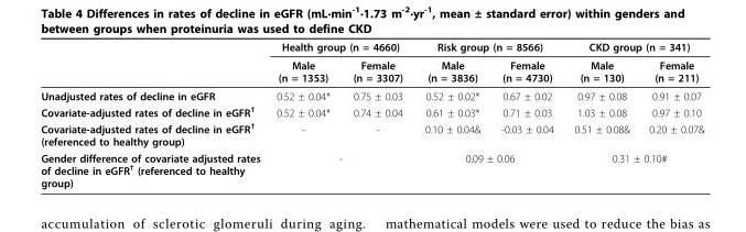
<table><thead><tr><td rowspan="2"></td><td colspan="2">Health group (n = 4660)</td><td colspan="2">Risk group (n = 8566)</td><td colspan="2">CKD group (n = 341)</td></tr><tr><td>Male (n = 1353)</td><td>Female (n = 3307)</td><td>Male (n = 3836)</td><td>Female (n = 4730)</td><td>Male (n = 130)</td><td>Female (n = 211)</td></tr></thead><tbody><tr><td>Unadjusted rates of decline in eGFR</td><td>0.52 ± 0.04*</td><td>0.75 ± 0.03</td><td>0.52 ± 0.02*</td><td>0.67 ± 0.02</td><td>0.97 ± 0.08</td><td>0.91 ± 0.07</td></tr><tr><td>Covariate-adjusted rates of decline in eGFR<sup>†</sup></td><td>0.52 ± 0.04*</td><td>0.74 ± 0.04</td><td>0.61 ± 0.03*</td><td>0.71 ± 0.03</td><td>1.03 ± 0.08</td><td>0.97 ± 0.10</td></tr><tr><td>Covariate-adjusted rates of decline in eGFR<sup>†</sup> (referenced to healthy group)</td><td>-</td><td>-</td><td>0.10 ± 0.04&amp;</td><td>-0.03 ± 0.04</td><td>0.51 ± 0.08&amp;</td><td>0.20 ± 0.07&amp;</td></tr><tr><td>Gender difference of covariate adjusted rates of decline in eGFR<sup>†</sup> (referenced to healthy group)</td><td colspan="2">-</td><td colspan="2">0.09 ± 0.06</td><td colspan="2">0.31 ± 0.10#</td></tr></tbody></table>